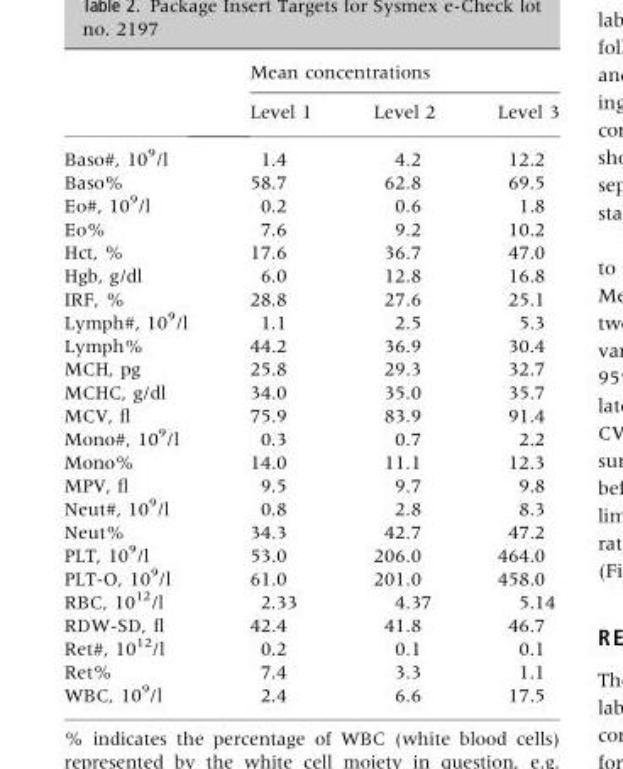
<table><thead><tr><td rowspan="2"></td><td colspan="3">Mean concentrations</td></tr><tr><td>Level 1</td><td>Level 2</td><td>Level 3</td></tr></thead><tbody><tr><td>Baso#, 10<sup>9</sup>/l</td><td>1.4</td><td>4.2</td><td>12.2</td></tr><tr><td>Baso%</td><td>58.7</td><td>62.8</td><td>69.5</td></tr><tr><td>Eo#, 10<sup>9</sup>/l</td><td>0.2</td><td>0.6</td><td>1.8</td></tr><tr><td>Eo%</td><td>7.6</td><td>9.2</td><td>10.2</td></tr><tr><td>Hct, %</td><td>17.6</td><td>36.7</td><td>47.0</td></tr><tr><td>Hgb, g/dl</td><td>6.0</td><td>12.8</td><td>16.8</td></tr><tr><td>IRF, %</td><td>28.8</td><td>27.6</td><td>25.1</td></tr><tr><td>Lymph#, 10<sup>9</sup>/l</td><td>1.1</td><td>2.5</td><td>5.3</td></tr><tr><td>Lymph%</td><td>44.2</td><td>36.9</td><td>30.4</td></tr><tr><td>MCH, pg</td><td>25.8</td><td>29.3</td><td>32.7</td></tr><tr><td>MCHC, g/dl</td><td>34.0</td><td>35.0</td><td>35.7</td></tr><tr><td>MCV, fl</td><td>75.9</td><td>83.9</td><td>91.4</td></tr><tr><td>Mono#, 10<sup>9</sup>/l</td><td>0.3</td><td>0.7</td><td>2.2</td></tr><tr><td>Mono%</td><td>14.0</td><td>11.1</td><td>12.3</td></tr><tr><td>MPV, fl</td><td>9.5</td><td>9.7</td><td>9.8</td></tr><tr><td>Neut#, 10<sup>9</sup>/l</td><td>0.8</td><td>2.8</td><td>8.3</td></tr><tr><td>Neut%</td><td>34.3</td><td>42.7</td><td>47.2</td></tr><tr><td>PLT, 10<sup>9</sup>/l</td><td>53.0</td><td>206.0</td><td>464.0</td></tr><tr><td>PLT-O, 10<sup>9</sup>/l</td><td>61.0</td><td>201.0</td><td>458.0</td></tr><tr><td>RBC, 10<sup>12</sup>/l</td><td>2.33</td><td>4.37</td><td>5.14</td></tr><tr><td>RDW-SD, fl</td><td>42.4</td><td>41.8</td><td>46.7</td></tr><tr><td>Ret#, 10<sup>12</sup>/l</td><td>0.2</td><td>0.1</td><td>0.1</td></tr><tr><td>Ret%</td><td>7.4</td><td>3.3</td><td>1.1</td></tr><tr><td>WBC, 10<sup>9</sup>/l</td><td>2.4</td><td>6.6</td><td>17.5</td></tr></tbody></table>